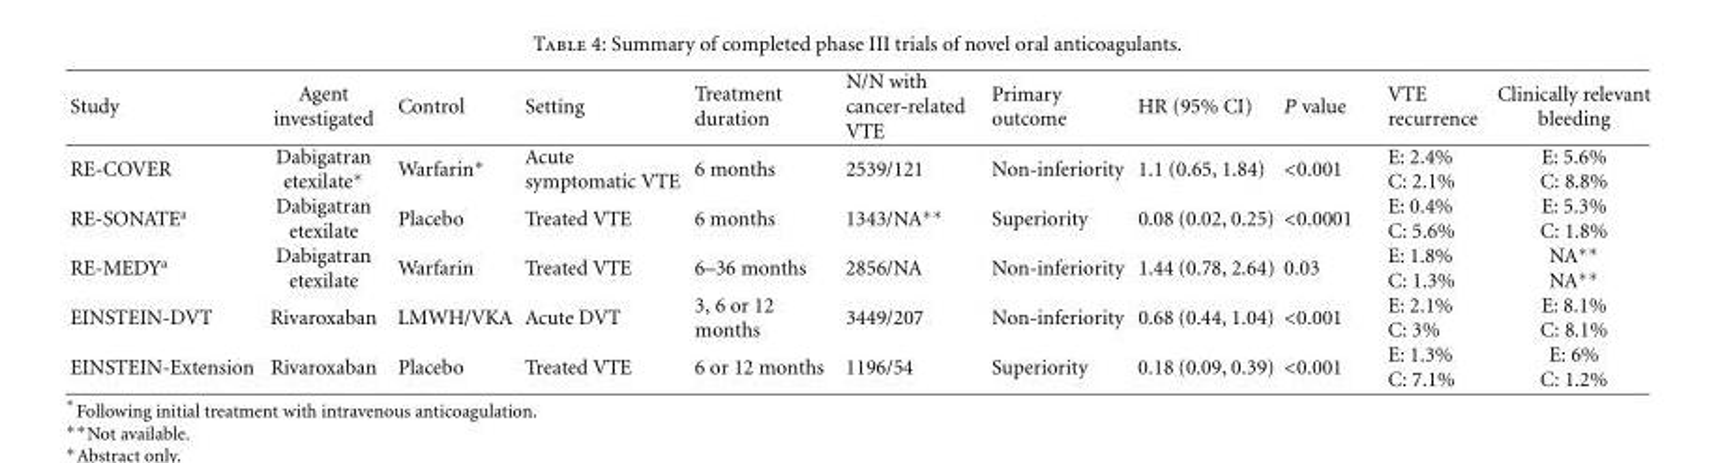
<table><thead><tr><td>Study</td><td>Agent investigated</td><td>Control</td><td>Setting</td><td>Treatment duration</td><td>N/N with cancer-related VTE</td><td>Primary outcome</td><td>HR (95% CI)</td><td>P value</td><td>VTE recurrence</td><td>Clinically relevant bleeding</td></tr></thead><tbody><tr><td>RE-COVER</td><td>Dabigatran etexilate∗</td><td>Warfarin∗</td><td>Acute symptomatic VTE</td><td>6 months</td><td>2539/121</td><td>Non-inferiority</td><td>1.1 (0.65, 1.84)</td><td>&lt;0.001</td><td>E: 2.4% C: 2.1%</td><td>E: 5.6% C: 8.8%</td></tr><tr><td>RE-SONATE<sup>a</sup></td><td>Dabigatran etexilate</td><td>Placebo</td><td>Treated VTE</td><td>6 months</td><td>1343/NA∗∗</td><td>Superiority</td><td>0.08 (0.02, 0.25)</td><td>&lt;0.0001</td><td>E: 0.4% C: 5.6%</td><td>E: 5.3% C: 1.8%</td></tr><tr><td>RE-MEDY<sup>a</sup></td><td>Dabigatran etexilate</td><td>Warfarin</td><td>Treated VTE</td><td>6–36 months</td><td>2856/NA</td><td>Non-inferiority</td><td>1.44 (0.78, 2.64)</td><td>0.03</td><td>E: 1.8% C: 1.3%</td><td>NA∗∗ NA∗∗</td></tr><tr><td>EINSTEIN-DVT</td><td>Rivaroxaban</td><td>LMWH/VKA</td><td>Acute DVT</td><td>3, 6 or 12 months</td><td>3449/207</td><td>Non-inferiority</td><td>0.68 (0.44, 1.04)</td><td>&lt;0.001</td><td>E: 2.1% C: 3%</td><td>E: 8.1% C: 8.1%</td></tr><tr><td>EINSTEIN-Extension</td><td>Rivaroxaban</td><td>Placebo</td><td>Treated VTE</td><td>6 or 12 months</td><td>1196/54</td><td>Superiority</td><td>0.18 (0.09, 0.39)</td><td>&lt;0.001</td><td>E: 1.3% C: 7.1%</td><td>E: 6% C: 1.2%</td></tr></tbody></table>